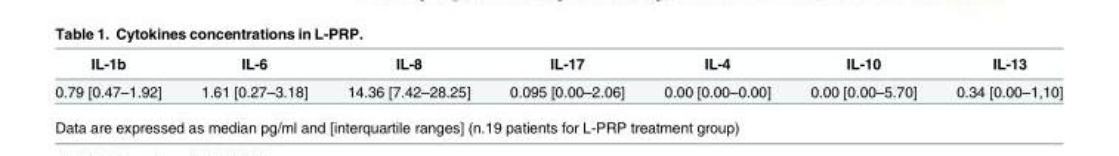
<table><thead><tr><td>IL-1b</td><td>IL-6</td><td>IL-8</td><td>IL-17</td><td>IL-4</td><td>IL-10</td><td>IL-13</td></tr></thead><tbody><tr><td>0.79 [0.47–1.92]</td><td>1.61 [0.27–3.18]</td><td>14.36 [7.42–28.25]</td><td>0.095 [0.00–2.06]</td><td>0.00 [0.00–0.00]</td><td>0.00 [0.00–5.70]</td><td>0.34 [0.00–1,10]</td></tr></tbody></table>